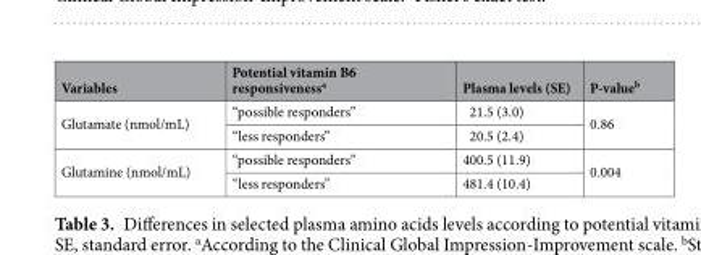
<table><thead><tr><td>Variables</td><td>Potential vitamin B6 responsiveness<sup>a</sup></td><td>Plasma levels (SE)</td><td>P-value<sup>b</sup></td></tr></thead><tbody><tr><td rowspan="2">Glutamate (nmol/mL)</td><td>“possible responders”</td><td>21.5 (3.0)</td><td rowspan="2">0.86</td></tr><tr><td>“less responders”</td><td>20.5 (2.4)</td></tr><tr><td rowspan="2">Glutamine (nmol/mL)</td><td>“possible responders”</td><td>400.5 (11.9)</td><td rowspan="2">0.004</td></tr><tr><td>“less responders”</td><td>481.4 (10.4)</td></tr></tbody></table>